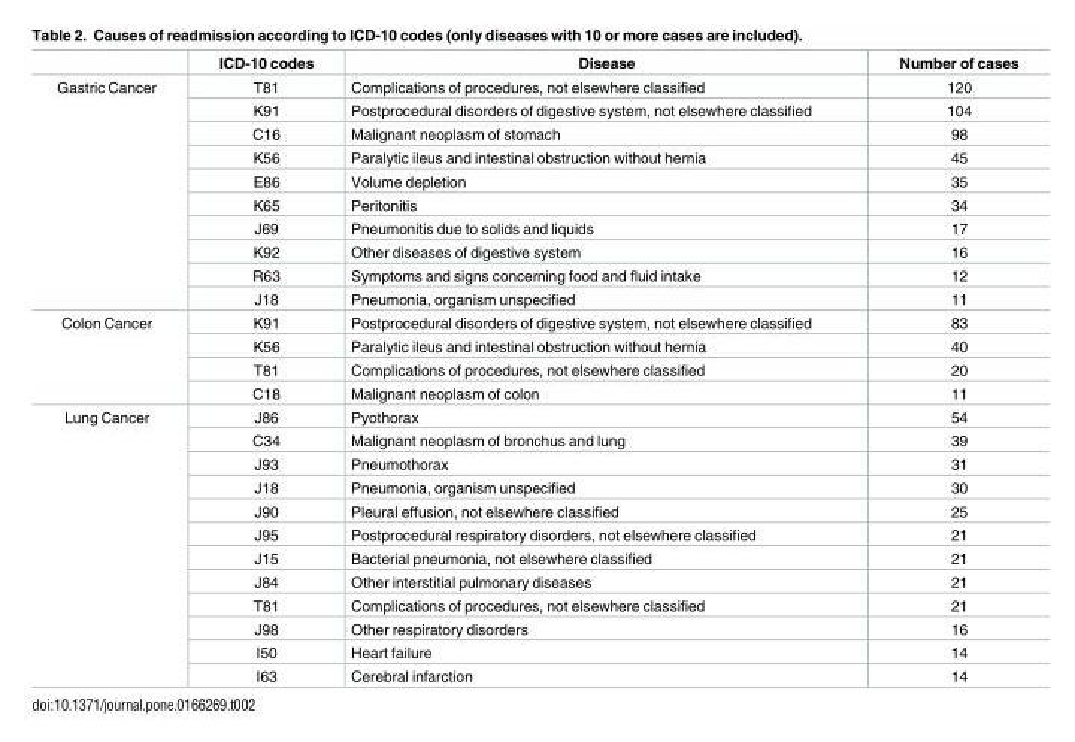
<table><thead><tr><td></td><td>ICD-10 codes</td><td>Disease</td><td>Number of cases</td></tr></thead><tbody><tr><td rowspan="10">Gastric Cancer</td><td>T81</td><td>Complications of procedures, not elsewhere classified</td><td>120</td></tr><tr><td>K91</td><td>Postprocedural disorders of digestive system, not elsewhere classified</td><td>104</td></tr><tr><td>C16</td><td>Malignant neoplasm of stomach</td><td>98</td></tr><tr><td>K56</td><td>Paralytic ileus and intestinal obstruction without hernia</td><td>45</td></tr><tr><td>E86</td><td>Volume depletion</td><td>35</td></tr><tr><td>K65</td><td>Peritonitis</td><td>34</td></tr><tr><td>J69</td><td>Pneumonitis due to solids and liquids</td><td>17</td></tr><tr><td>K92</td><td>Other diseases of digestive system</td><td>16</td></tr><tr><td>R63</td><td>Symptoms and signs concerning food and fluid intake</td><td>12</td></tr><tr><td>J18</td><td>Pneumonia, organism unspecified</td><td>11</td></tr><tr><td rowspan="4">Colon Cancer</td><td>K91</td><td>Postprocedural disorders of digestive system, not elsewhere classified</td><td>83</td></tr><tr><td>K56</td><td>Paralytic ileus and intestinal obstruction without hernia</td><td>40</td></tr><tr><td>T81</td><td>Complications of procedures, not elsewhere classified</td><td>20</td></tr><tr><td>C18</td><td>Malignant neoplasm of colon</td><td>11</td></tr><tr><td rowspan="12">Lung Cancer</td><td>J86</td><td>Pyothorax</td><td>54</td></tr><tr><td>C34</td><td>Malignant neoplasm of bronchus and lung</td><td>39</td></tr><tr><td>J93</td><td>Pneumothorax</td><td>31</td></tr><tr><td>J18</td><td>Pneumonia, organism unspecified</td><td>30</td></tr><tr><td>J90</td><td>Pleural effusion, not elsewhere classified</td><td>25</td></tr><tr><td>J95</td><td>Postprocedural respiratory disorders, not elsewhere classified</td><td>21</td></tr><tr><td>J15</td><td>Bacterial pneumonia, not elsewhere classified</td><td>21</td></tr><tr><td>J84</td><td>Other interstitial pulmonary diseases</td><td>21</td></tr><tr><td>T81</td><td>Complications of procedures, not elsewhere classified</td><td>21</td></tr><tr><td>J98</td><td>Other respiratory disorders</td><td>16</td></tr><tr><td>I50</td><td>Heart failure</td><td>14</td></tr><tr><td>I63</td><td>Cerebral infarction</td><td>14</td></tr></tbody></table>